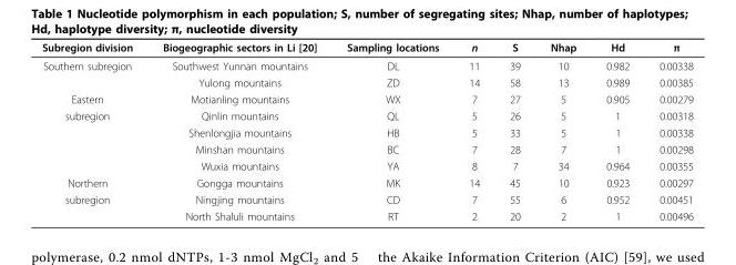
<table><thead><tr><td>Subregion division</td><td>Biogeographic sectors in Li [20]</td><td>Sampling locations</td><td>n</td><td>S</td><td>Nhap</td><td>Hd</td><td>π</td></tr></thead><tbody><tr><td rowspan="2">Southern subregion</td><td>Southwest Yunnan mountains</td><td>DL</td><td>11</td><td>39</td><td>10</td><td>0.982</td><td>0.00338</td></tr><tr><td>Yulong mountains</td><td>ZD</td><td>14</td><td>58</td><td>13</td><td>0.989</td><td>0.00385</td></tr><tr><td>Eastern</td><td>Motianling mountains</td><td>WX</td><td>7</td><td>27</td><td>5</td><td>0.905</td><td>0.00279</td></tr><tr><td rowspan="4">subregion</td><td>Qinlin mountains</td><td>QL</td><td>5</td><td>26</td><td>5</td><td>1</td><td>0.00318</td></tr><tr><td>Shenlongjia mountains</td><td>HB</td><td>5</td><td>33</td><td>5</td><td>1</td><td>0.00338</td></tr><tr><td>Minshan mountains</td><td>BC</td><td>7</td><td>28</td><td>7</td><td>1</td><td>0.00298</td></tr><tr><td>Wuxia mountains</td><td>YA</td><td>8</td><td>7</td><td>34</td><td>0.964</td><td>0.00355</td></tr><tr><td>Northern</td><td>Gongga mountains</td><td>MK</td><td>14</td><td>45</td><td>10</td><td>0.923</td><td>0.00297</td></tr><tr><td rowspan="2">subregion</td><td>Ningjing mountains</td><td>CD</td><td>7</td><td>55</td><td>6</td><td>0.952</td><td>0.00451</td></tr><tr><td>North Shaluli mountains</td><td>RT</td><td>2</td><td>20</td><td>2</td><td>1</td><td>0.00496</td></tr></tbody></table>